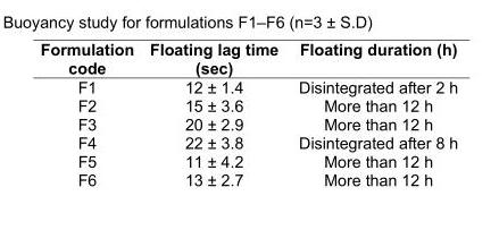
<table><thead><tr><td>Formulation code</td><td>Floating lag time (sec)</td><td>Floating duration (h)</td></tr></thead><tbody><tr><td>F1</td><td>12 ± 1.4</td><td>Disintegrated after 2 h</td></tr><tr><td>F2</td><td>15 ± 3.6</td><td>More than 12 h</td></tr><tr><td>F3</td><td>20 ± 2.9</td><td>More than 12 h</td></tr><tr><td>F4</td><td>22 ± 3.8</td><td>Disintegrated after 8 h</td></tr><tr><td>F5</td><td>11 ± 4.2</td><td>More than 12 h</td></tr><tr><td>F6</td><td>13 ± 2.7</td><td>More than 12 h</td></tr></tbody></table>